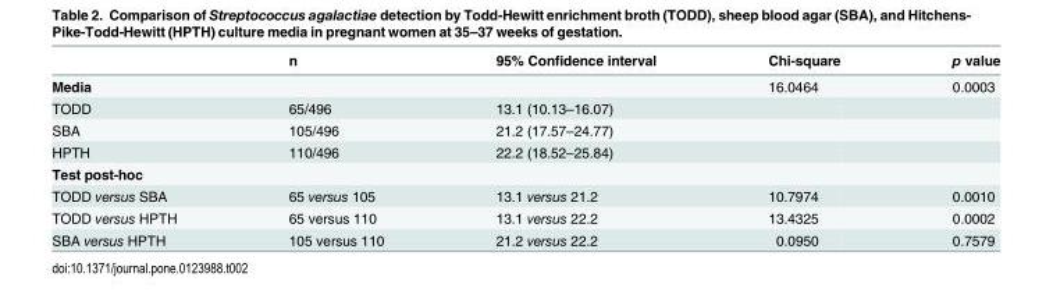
<table><thead><tr><td></td><td>n</td><td>95% Confidence interval</td><td>Chi-square</td><td>p value</td></tr></thead><tbody><tr><td>Media</td><td></td><td></td><td>16.0464</td><td>0.0003</td></tr><tr><td>TODD</td><td>65/496</td><td>13.1 (10.13–16.07)</td><td></td><td></td></tr><tr><td>SBA</td><td>105/496</td><td>21.2 (17.57–24.77)</td><td></td><td></td></tr><tr><td>HPTH</td><td>110/496</td><td>22.2 (18.52–25.84)</td><td></td><td></td></tr><tr><td colspan="5">Test post-hoc</td></tr><tr><td>TODD versus SBA</td><td>65 versus 105</td><td>13.1 versus 21.2</td><td>10.7974</td><td>0.0010</td></tr><tr><td>TODD versus HPTH</td><td>65 versus 110</td><td>13.1 versus 22.2</td><td>13.4325</td><td>0.0002</td></tr><tr><td>SBA versus HPTH</td><td>105 versus 110</td><td>21.2 versus 22.2</td><td>0.0950</td><td>0.7579</td></tr></tbody></table>